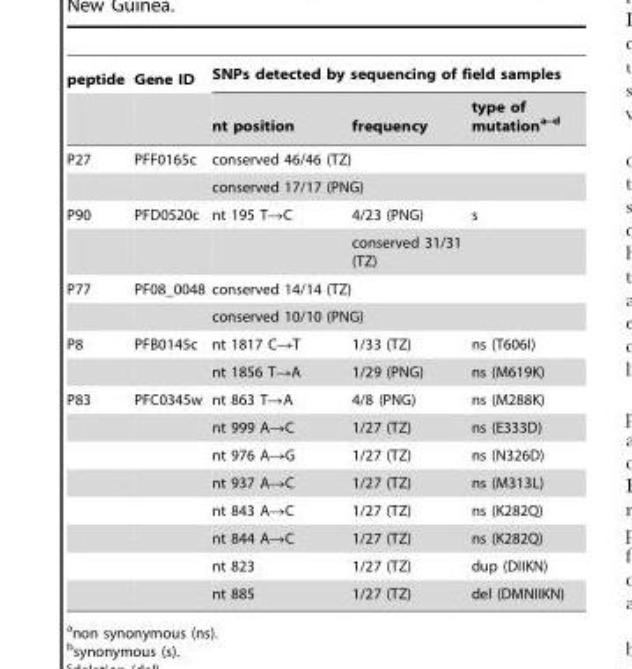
<table><thead><tr><td rowspan="2">peptide</td><td rowspan="2">Gene ID</td><td colspan="3">SNPs detected by sequencing of field samples</td></tr><tr><td>nt position</td><td>frequency</td><td>type of mutationa–d</td></tr></thead><tbody><tr><td rowspan="2">P27</td><td>PFF0165c</td><td colspan="3">conserved 46/46 (TZ)</td></tr><tr><td></td><td colspan="3">conserved 17/17 (PNG)</td></tr><tr><td rowspan="2">P90</td><td>PFD0520c</td><td>nt 195 T→C</td><td>4/23 (PNG)</td><td>s</td></tr><tr><td></td><td></td><td>conserved 31/31 (TZ)</td><td></td></tr><tr><td rowspan="2">P77</td><td>PF08_0048</td><td colspan="3">conserved 14/14 (TZ)</td></tr><tr><td></td><td colspan="3">conserved 10/10 (PNG)</td></tr><tr><td rowspan="2">P8</td><td>PFB0145c</td><td>nt 1817 C→T</td><td>1/33 (TZ)</td><td>ns (T606I)</td></tr><tr><td></td><td>nt 1856 T→A</td><td>1/29 (PNG)</td><td>ns (M619K)</td></tr><tr><td rowspan="8">P83</td><td>PFC0345w</td><td>nt 863 T→A</td><td>4/8 (PNG)</td><td>ns (M288K)</td></tr><tr><td></td><td>nt 999 A→C</td><td>1/27 (TZ)</td><td>ns (E333D)</td></tr><tr><td></td><td>nt 976 A→G</td><td>1/27 (TZ)</td><td>ns (N326D)</td></tr><tr><td></td><td>nt 937 A→C</td><td>1/27 (TZ)</td><td>ns (M313L)</td></tr><tr><td></td><td>nt 843 A→C</td><td>1/27 (TZ)</td><td>ns (K282Q)</td></tr><tr><td></td><td>nt 844 A→C</td><td>1/27 (TZ)</td><td>ns (K282Q)</td></tr><tr><td></td><td>nt 823</td><td>1/27 (TZ)</td><td>dup (DIIKN)</td></tr><tr><td></td><td>nt 885</td><td>1/27 (TZ)</td><td>del (DMNIIKN)</td></tr></tbody></table>